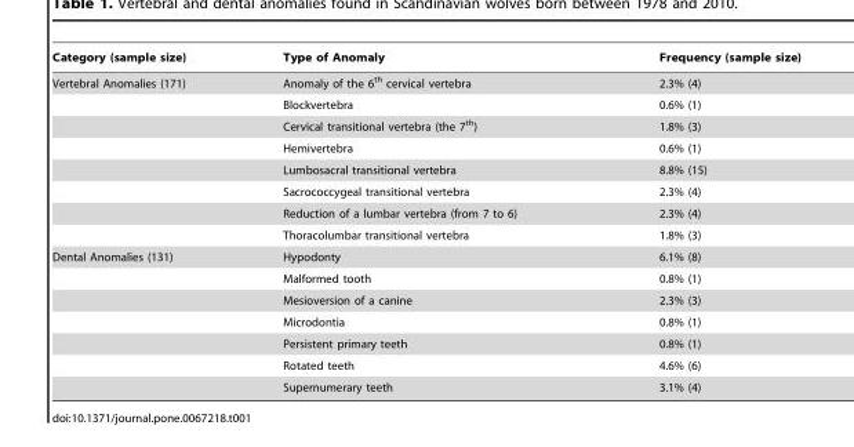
<table><thead><tr><td>Category (sample size)</td><td>Type of Anomaly</td><td>Frequency (sample size)</td></tr></thead><tbody><tr><td rowspan="8">Vertebral Anomalies (171)</td><td>Anomaly of the 6<sup>th</sup> cervical vertebra</td><td>2.3% (4)</td></tr><tr><td>Blockvertebra</td><td>0.6% (1)</td></tr><tr><td>Cervical transitional vertebra (the 7<sup>th</sup>)</td><td>1.8% (3)</td></tr><tr><td>Hemivertebra</td><td>0.6% (1)</td></tr><tr><td>Lumbosacral transitional vertebra</td><td>8.8% (15)</td></tr><tr><td>Sacrococcygeal transitional vertebra</td><td>2.3% (4)</td></tr><tr><td>Reduction of a lumbar vertebra (from 7 to 6)</td><td>2.3% (4)</td></tr><tr><td>Thoracolumbar transitional vertebra</td><td>1.8% (3)</td></tr><tr><td rowspan="7">Dental Anomalies (131)</td><td>Hypodonty</td><td>6.1% (8)</td></tr><tr><td>Malformed tooth</td><td>0.8% (1)</td></tr><tr><td>Mesioversion of a canine</td><td>2.3% (3)</td></tr><tr><td>Microdontia</td><td>0.8% (1)</td></tr><tr><td>Persistent primary teeth</td><td>0.8% (1)</td></tr><tr><td>Rotated teeth</td><td>4.6% (6)</td></tr><tr><td>Supernumerary teeth</td><td>3.1% (4)</td></tr></tbody></table>